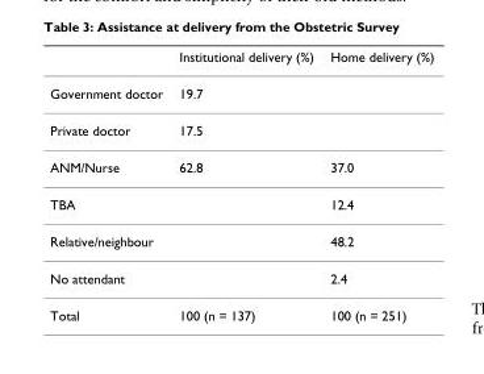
<table><thead><tr><td></td><td>Institutional delivery (%)</td><td>Home delivery (%)</td></tr></thead><tbody><tr><td>Government doctor</td><td>19.7</td><td></td></tr><tr><td>Private doctor</td><td>17.5</td><td></td></tr><tr><td>ANM/Nurse</td><td>62.8</td><td>37.0</td></tr><tr><td>TBA</td><td></td><td>12.4</td></tr><tr><td>Relative/neighbour</td><td></td><td>48.2</td></tr><tr><td>No attendant</td><td></td><td>2.4</td></tr><tr><td>Total</td><td>100 (n = 137)</td><td>100 (n = 251)</td></tr></tbody></table>